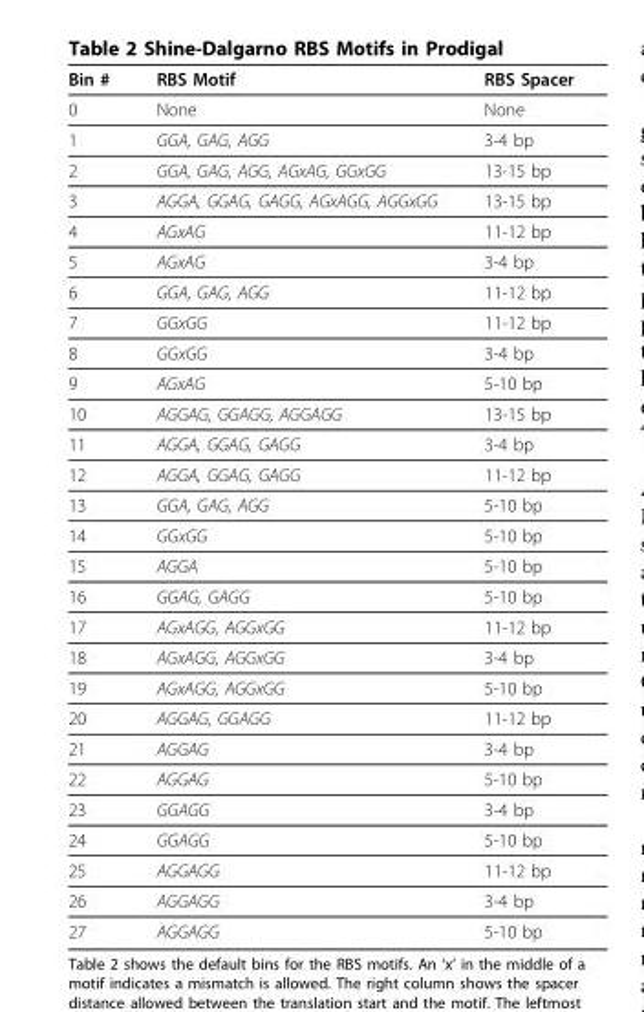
<table><thead><tr><td>Bin #</td><td>RBS Motif</td><td>RBS Spacer</td></tr></thead><tbody><tr><td>0</td><td>None</td><td>None</td></tr><tr><td>1</td><td>GGA, GAG, AGG</td><td>3-4 bp</td></tr><tr><td>2</td><td>GGA, GAG, AGG, AGxAG, GGxGG</td><td>13-15 bp</td></tr><tr><td>3</td><td>AGGA, GGAG, GAGG, AGxAGG, AGGxGG</td><td>13-15 bp</td></tr><tr><td>4</td><td>AGxAG</td><td>11-12 bp</td></tr><tr><td>5</td><td>AGxAG</td><td>3-4 bp</td></tr><tr><td>6</td><td>GGA, GAG, AGG</td><td>11-12 bp</td></tr><tr><td>7</td><td>GGxGG</td><td>11-12 bp</td></tr><tr><td>8</td><td>GGxGG</td><td>3-4 bp</td></tr><tr><td>9</td><td>AGxAG</td><td>5-10 bp</td></tr><tr><td>10</td><td>AGGAG, GGAGG, AGGAGG</td><td>13-15 bp</td></tr><tr><td>11</td><td>AGGA, GGAG, GAGG</td><td>3-4 bp</td></tr><tr><td>12</td><td>AGGA, GGAG, GAGG</td><td>11-12 bp</td></tr><tr><td>13</td><td>GGA, GAG, AGG</td><td>5-10 bp</td></tr><tr><td>14</td><td>GGxGG</td><td>5-10 bp</td></tr><tr><td>15</td><td>AGGA</td><td>5-10 bp</td></tr><tr><td>16</td><td>GGAG, GAGG</td><td>5-10 bp</td></tr><tr><td>17</td><td>AGxAGG, AGGxGG</td><td>11-12 bp</td></tr><tr><td>18</td><td>AGxAGG, AGGxGG</td><td>3-4 bp</td></tr><tr><td>19</td><td>AGxAGG, AGGxGG</td><td>5-10 bp</td></tr><tr><td>20</td><td>AGGAG, GGAGG</td><td>11-12 bp</td></tr><tr><td>21</td><td>AGGAG</td><td>3-4 bp</td></tr><tr><td>22</td><td>AGGAG</td><td>5-10 bp</td></tr><tr><td>23</td><td>GGAGG</td><td>3-4 bp</td></tr><tr><td>24</td><td>GGAGG</td><td>5-10 bp</td></tr><tr><td>25</td><td>AGGAGG</td><td>11-12 bp</td></tr><tr><td>26</td><td>AGGAGG</td><td>3-4 bp</td></tr><tr><td>27</td><td>AGGAGG</td><td>5-10 bp</td></tr></tbody></table>